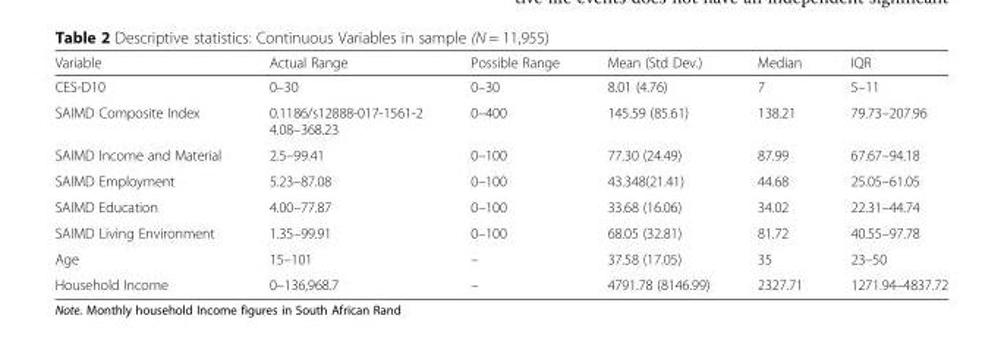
<table><thead><tr><td>Variable</td><td>Actual Range</td><td>Possible Range</td><td>Mean (Std Dev.)</td><td>Median</td><td>IQR</td></tr></thead><tbody><tr><td>CES-D10</td><td>0–30</td><td>0–30</td><td>8.01 (4.76)</td><td>7</td><td>5–11</td></tr><tr><td>SAIMD Composite Index</td><td>0.1186/s12888-017-1561-2 4.08–368.23</td><td>0–400</td><td>145.59 (85.61)</td><td>138.21</td><td>79.73–207.96</td></tr><tr><td>SAIMD Income and Material</td><td>2.5–99.41</td><td>0–100</td><td>77.30 (24.49)</td><td>87.99</td><td>67.67–94.18</td></tr><tr><td>SAIMD Employment</td><td>5.23–87.08</td><td>0–100</td><td>43.348(21.41)</td><td>44.68</td><td>25.05–61.05</td></tr><tr><td>SAIMD Education</td><td>4.00–77.87</td><td>0–100</td><td>33.68 (16.06)</td><td>34.02</td><td>22.31–44.74</td></tr><tr><td>SAIMD Living Environment</td><td>1.35–99.91</td><td>0–100</td><td>68.05 (32.81)</td><td>81.72</td><td>40.55–97.78</td></tr><tr><td>Age</td><td>15–101</td><td>–</td><td>37.58 (17.05)</td><td>35</td><td>23–50</td></tr><tr><td>Household Income</td><td>0–136,968.7</td><td>–</td><td>4791.78 (8146.99)</td><td>2327.71</td><td>1271.94–4837.72</td></tr></tbody></table>